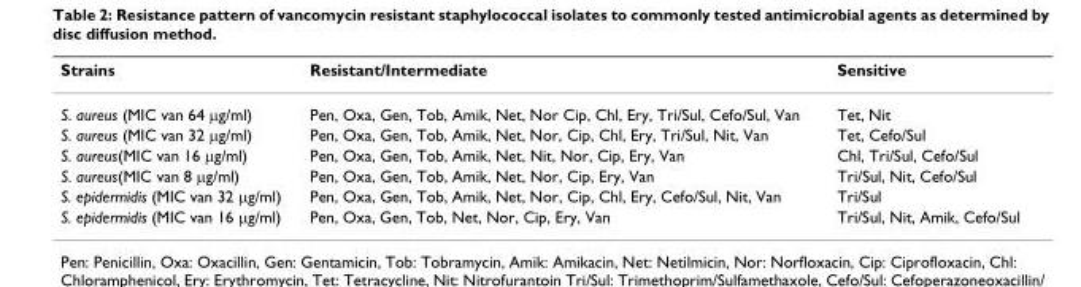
<table><thead><tr><td>Strains</td><td>Resistant/Intermediate</td><td>Sensitive</td></tr></thead><tbody><tr><td>S. aureus (MIC van 64 µg/ml)</td><td>Pen, Oxa, Gen, Tob, Amik, Net, Nor Cip, Chl, Ery, Tri/Sul, Cefo/Sul, Van</td><td>Tet, Nit</td></tr><tr><td>S. aureus (MIC van 32 µg/ml)</td><td>Pen, Oxa, Gen, Tob, Amik, Net, Nor, Cip, Chl, Ery, Tri/Sul, Nit, Van</td><td>Tet, Cefo/Sul</td></tr><tr><td>S. aureus(MIC van 16 µg/ml)</td><td>Pen, Oxa, Gen, Tob, Amik, Net, Nit, Nor, Cip, Ery, Van</td><td>Chl, Tri/Sul, Cefo/Sul</td></tr><tr><td>S. aureus(MIC van 8 µg/ml)</td><td>Pen, Oxa, Gen, Tob, Amik, Net, Nor, Cip, Ery, Van</td><td>Tri/Sul, Nit, Cefo/Sul</td></tr><tr><td>S. epidermidis (MIC van 32 µg/ml)</td><td>Pen, Oxa, Gen, Tob, Amik, Net, Nor, Cip, Chl, Ery, Cefo/Sul, Nit, Van</td><td>Tri/Sul</td></tr><tr><td>S. epidermidis (MIC van 16 µg/ml)</td><td>Pen, Oxa, Gen, Tob, Net, Nor, Cip, Ery, Van</td><td>Tri/Sul, Nit, Amik, Cefo/Sul</td></tr></tbody></table>